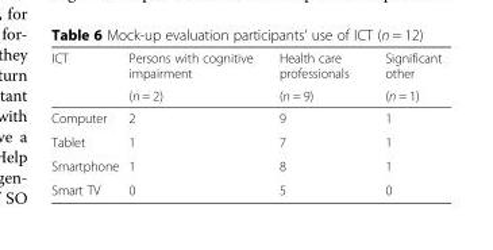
<table><thead><tr><td rowspan="2">ICT</td><td rowspan="2">Persons with cognitive impairment (n = 2)</td><td rowspan="2">Health care professionals (n = 9)</td><td rowspan="2">Significant other (n = 1)</td></tr><tr></tr></thead><tbody><tr><td>Computer</td><td>2</td><td>9</td><td>1</td></tr><tr><td>Tablet</td><td>1</td><td>7</td><td>1</td></tr><tr><td>Smartphone</td><td>1</td><td>8</td><td>1</td></tr><tr><td>Smart TV</td><td>0</td><td>5</td><td>0</td></tr></tbody></table>